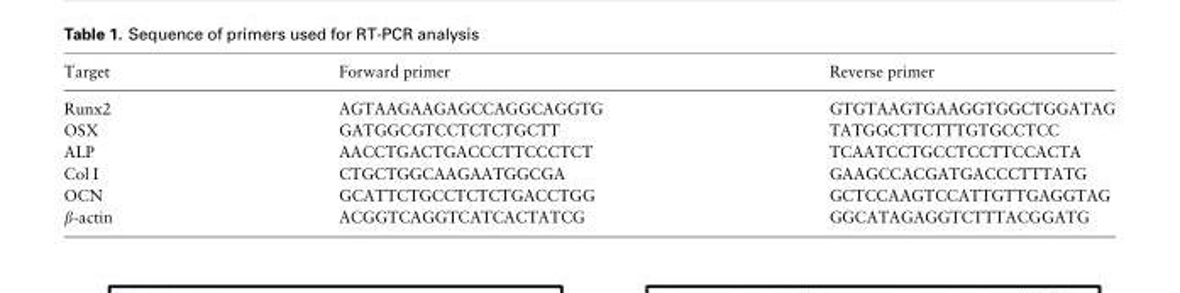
<table><thead><tr><td>Target</td><td>Forward primer</td><td>Reverse primer</td></tr></thead><tbody><tr><td>Runx2</td><td>AGTAAGAAGAGCCAGGCAGGTG</td><td>GTGTAAGTGAAGGTGGCTGGATAG</td></tr><tr><td>OSX</td><td>GATGGCGTCCTCTCTGCTT</td><td>TATGGCTTCTTTGTGCCTCC</td></tr><tr><td>ALP</td><td>AACCTGACTGACCCTTCCCTCT</td><td>TCAATCCTGCCTCCTTCCACTA</td></tr><tr><td>Col I</td><td>CTGCTGGCAAGAATGGCGA</td><td>GAAGCCACGATGACCCTTTATG</td></tr><tr><td>OCN</td><td>GCATTCTGCCTCTCTGACCTGG</td><td>GCTCCAAGTCCATTGTTGAGGTAG</td></tr><tr><td>β-actin</td><td>ACGGTCAGGTCATCACTATCG</td><td>GGCATAGAGGTCTTTACGGATG</td></tr></tbody></table>